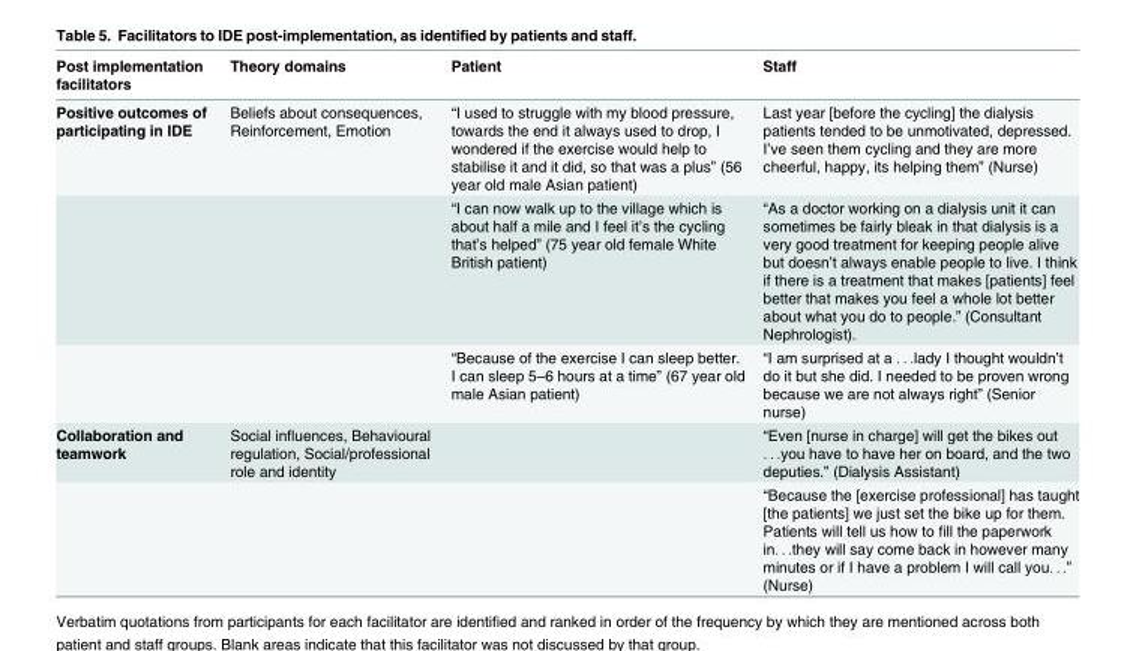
<table><thead><tr><td>Post implementation facilitators</td><td>Theory domains</td><td>Patient</td><td>Staff</td></tr></thead><tbody><tr><td rowspan="3">Positive outcomes of participating in IDE</td><td>Beliefs about consequences, Reinforcement, Emotion</td><td>“I used to struggle with my blood pressure, towards the end it always used to drop, I wondered if the exercise would help to stabilise it and it did, so that was a plus” (56 year old male Asian patient)</td><td>Last year [before the cycling] the dialysis patients tended to be unmotivated, depressed. I’ve seen them cycling and they are more cheerful, happy, its helping them” (Nurse)</td></tr><tr><td></td><td>“I can now walk up to the village which is about half a mile and I feel it’s the cycling that’s helped” (75 year old female White British patient)</td><td>“As a doctor working on a dialysis unit it can sometimes be fairly bleak in that dialysis is a very good treatment for keeping people alive but doesn’t always enable people to live. I think if there is a treatment that makes [patients] feel better that makes you feel a whole lot better about what you do to people.” (Consultant Nephrologist).</td></tr><tr><td></td><td>“Because of the exercise I can sleep better. I can sleep 5–6 hours at a time” (67 year old male Asian patient)</td><td>“I am surprised at a . . .lady I thought wouldn’t do it but she did. I needed to be proven wrong because we are not always right” (Senior nurse)</td></tr><tr><td rowspan="2">Collaboration and teamwork</td><td>Social influences, Behavioural regulation, Social/professional role and identity</td><td></td><td>“Even [nurse in charge] will get the bikes out . . .you have to have her on board, and the two deputies.” (Dialysis Assistant)</td></tr><tr><td></td><td></td><td>“Because the [exercise professional] has taught [the patients] we just set the bike up for them. Patients will tell us how to fill the paperwork in. . .they will say come back in however many minutes or if I have a problem I will call you. . .” (Nurse)</td></tr></tbody></table>